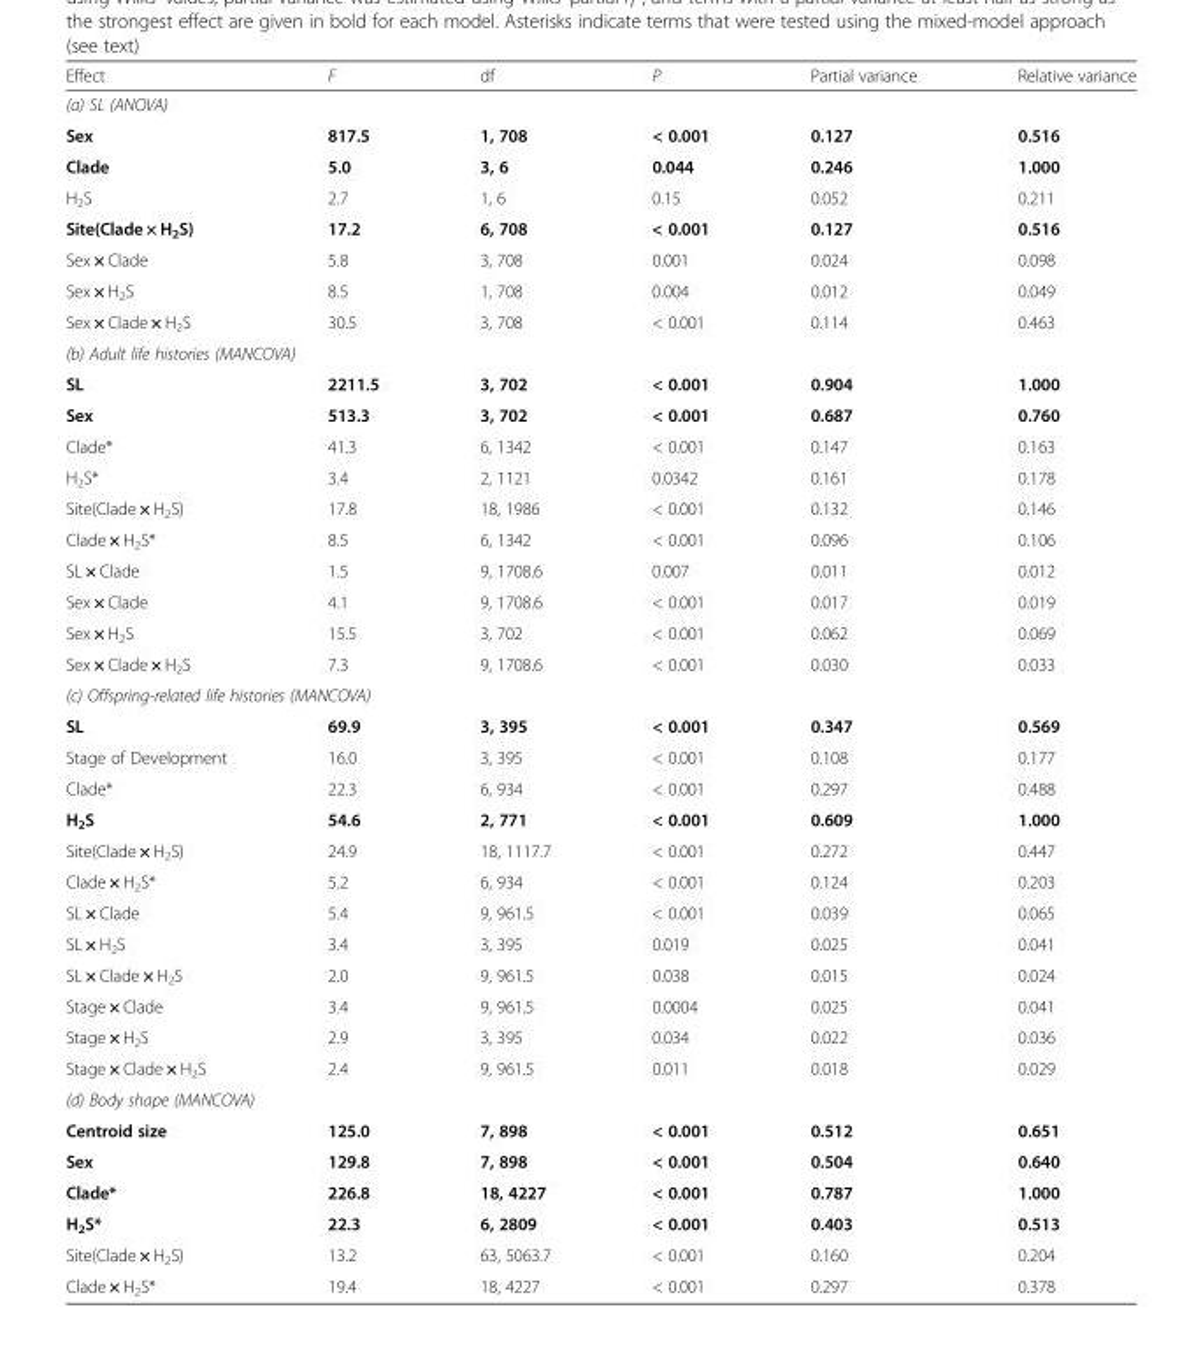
<table><thead><tr><td>Effect</td><td>F</td><td>df</td><td>P</td><td>Partial variance</td><td>Relative variance</td></tr></thead><tbody><tr><td colspan="6">(a) SL (ANOVA)</td></tr><tr><td>Sex</td><td>817.5</td><td>1, 708</td><td>&lt; 0.001</td><td>0.127</td><td>0.516</td></tr><tr><td>Clade</td><td>5.0</td><td>3, 6</td><td>0.044</td><td>0.246</td><td>1.000</td></tr><tr><td>H<sub>2</sub>S</td><td>2.7</td><td>1, 6</td><td>0.15</td><td>0.052</td><td>0.211</td></tr><tr><td>Site(Clade × H<sub>2</sub>S)</td><td>17.2</td><td>6, 708</td><td>&lt; 0.001</td><td>0.127</td><td>0.516</td></tr><tr><td>Sex × Clade</td><td>5.8</td><td>3, 708</td><td>0.001</td><td>0.024</td><td>0.098</td></tr><tr><td>Sex × H<sub>2</sub>S</td><td>8.5</td><td>1, 708</td><td>0.004</td><td>0.012</td><td>0.049</td></tr><tr><td>Sex × Clade × H<sub>2</sub>S</td><td>30.5</td><td>3, 708</td><td>&lt; 0.001</td><td>0.114</td><td>0.463</td></tr><tr><td colspan="6">(b) Adult life histories (MANCOVA)</td></tr><tr><td>SL</td><td>2211.5</td><td>3, 702</td><td>&lt; 0.001</td><td>0.904</td><td>1.000</td></tr><tr><td>Sex</td><td>513.3</td><td>3, 702</td><td>&lt; 0.001</td><td>0.687</td><td>0.760</td></tr><tr><td>Clade*</td><td>41.3</td><td>6, 1342</td><td>&lt; 0.001</td><td>0.147</td><td>0.163</td></tr><tr><td>H<sub>2</sub>S*</td><td>3.4</td><td>2, 1121</td><td>0.0342</td><td>0.161</td><td>0.178</td></tr><tr><td>Site(Clade × H<sub>2</sub>S)</td><td>17.8</td><td>18, 1986</td><td>&lt; 0.001</td><td>0.132</td><td>0.146</td></tr><tr><td>Clade × H<sub>2</sub>S*</td><td>8.5</td><td>6, 1342</td><td>&lt; 0.001</td><td>0.096</td><td>0.106</td></tr><tr><td>SL × Clade</td><td>1.5</td><td>9, 1708.6</td><td>0.007</td><td>0.011</td><td>0.012</td></tr><tr><td>Sex × Clade</td><td>4.1</td><td>9, 1708.6</td><td>&lt; 0.001</td><td>0.017</td><td>0.019</td></tr><tr><td>Sex × H<sub>2</sub>S</td><td>15.5</td><td>3, 702</td><td>&lt; 0.001</td><td>0.062</td><td>0.069</td></tr><tr><td>Sex × Clade × H<sub>2</sub>S</td><td>7.3</td><td>9, 1708.6</td><td>&lt; 0.001</td><td>0.030</td><td>0.033</td></tr><tr><td colspan="6">(c) Offspring-related life histories (MANCOVA)</td></tr><tr><td>SL</td><td>69.9</td><td>3, 395</td><td>&lt; 0.001</td><td>0.347</td><td>0.569</td></tr><tr><td>Stage of Development</td><td>16.0</td><td>3, 395</td><td>&lt; 0.001</td><td>0.108</td><td>0.177</td></tr><tr><td>Clade*</td><td>22.3</td><td>6, 934</td><td>&lt; 0.001</td><td>0.297</td><td>0.488</td></tr><tr><td>H<sub>2</sub>S</td><td>54.6</td><td>2, 771</td><td>&lt; 0.001</td><td>0.609</td><td>1.000</td></tr><tr><td>Site(Clade × H<sub>2</sub>S)</td><td>24.9</td><td>18, 1117.7</td><td>&lt; 0.001</td><td>0.272</td><td>0.447</td></tr><tr><td>Clade × H<sub>2</sub>S*</td><td>5.2</td><td>6, 934</td><td>&lt; 0.001</td><td>0.124</td><td>0.203</td></tr><tr><td>SL × Clade</td><td>5.4</td><td>9, 961.5</td><td>&lt; 0.001</td><td>0.039</td><td>0.065</td></tr><tr><td>SL × H<sub>2</sub>S</td><td>3.4</td><td>3, 395</td><td>0.019</td><td>0.025</td><td>0.041</td></tr><tr><td>SL × Clade × H<sub>2</sub>S</td><td>2.0</td><td>9, 961.5</td><td>0.038</td><td>0.015</td><td>0.024</td></tr><tr><td>Stage × Clade</td><td>3.4</td><td>9, 961.5</td><td>0.0004</td><td>0.025</td><td>0.041</td></tr><tr><td>Stage × H<sub>2</sub>S</td><td>2.9</td><td>3, 395</td><td>0.034</td><td>0.022</td><td>0.036</td></tr><tr><td>Stage × Clade × H<sub>2</sub>S</td><td>2.4</td><td>9, 961.5</td><td>0.011</td><td>0.018</td><td>0.029</td></tr><tr><td colspan="6">(d) Body shape (MANCOVA)</td></tr><tr><td>Centroid size</td><td>125.0</td><td>7, 898</td><td>&lt; 0.001</td><td>0.512</td><td>0.651</td></tr><tr><td>Sex</td><td>129.8</td><td>7, 898</td><td>&lt; 0.001</td><td>0.504</td><td>0.640</td></tr><tr><td>Clade*</td><td>226.8</td><td>18, 4227</td><td>&lt; 0.001</td><td>0.787</td><td>1.000</td></tr><tr><td>H<sub>2</sub>S*</td><td>22.3</td><td>6, 2809</td><td>&lt; 0.001</td><td>0.403</td><td>0.513</td></tr><tr><td>Site(Clade × H<sub>2</sub>S)</td><td>13.2</td><td>63, 5063.7</td><td>&lt; 0.001</td><td>0.160</td><td>0.204</td></tr><tr><td>Clade × H<sub>2</sub>S*</td><td>19.4</td><td>18, 4227</td><td>&lt; 0.001</td><td>0.297</td><td>0.378</td></tr></tbody></table>